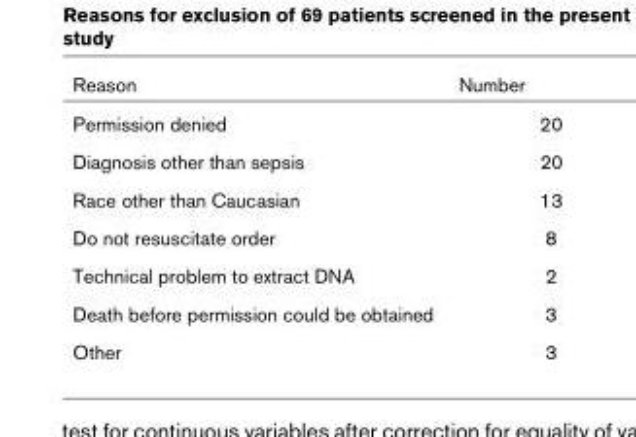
<table><thead><tr><td>Reason</td><td>Number</td></tr></thead><tbody><tr><td>Permission denied</td><td>20</td></tr><tr><td>Diagnosis other than sepsis</td><td>20</td></tr><tr><td>Race other than Caucasian</td><td>13</td></tr><tr><td>Do not resuscitate order</td><td>8</td></tr><tr><td>Technical problem to extract DNA</td><td>2</td></tr><tr><td>Death before permission could be obtained</td><td>3</td></tr><tr><td>Other</td><td>3</td></tr></tbody></table>